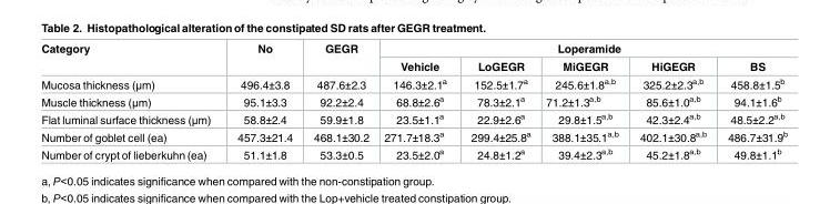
<table><thead><tr><td rowspan="2">Category</td><td rowspan="2">No</td><td rowspan="2">GEGR</td><td colspan="5">Loperamide</td></tr><tr><td>Vehicle</td><td>LoGEGR</td><td>MiGEGR</td><td>HiGEGR</td><td>BS</td></tr></thead><tbody><tr><td>Mucosa thickness (μm)</td><td>496.4±3.8</td><td>487.6±2.3</td><td>146.3±2.1<sup>a</sup></td><td>152.5±1.7<sup>a</sup></td><td>245.6±1.8<sup>a,b</sup></td><td>325.2±2.3<sup>a,b</sup></td><td>458.8±1.5<sup>b</sup></td></tr><tr><td>Muscle thickness (μm)</td><td>95.1±3.3</td><td>92.2±2.4</td><td>68.8±2.6<sup>a</sup></td><td>78.3±2.1<sup>a</sup></td><td>71.2±1.3<sup>a,b</sup></td><td>85.6±1.0<sup>a,b</sup></td><td>94.1±1.6<sup>b</sup></td></tr><tr><td>Flat luminal surface thickness (μm)</td><td>58.8±2.4</td><td>59.9±1.8</td><td>23.5±1.1<sup>a</sup></td><td>22.9±2.6<sup>a</sup></td><td>29.8±1.5<sup>a,b</sup></td><td>42.3±2.4<sup>a,b</sup></td><td>48.5±2.2<sup>a,b</sup></td></tr><tr><td>Number of goblet cell (ea)</td><td>457.3±21.4</td><td>468.1±30.2</td><td>271.7±18.3<sup>a</sup></td><td>299.4±25.8<sup>a</sup></td><td>388.1±35.1<sup>a,b</sup></td><td>402.1±30.8<sup>a,b</sup></td><td>486.7±31.9<sup>b</sup></td></tr><tr><td>Number of crypt of lieberkuhn (ea)</td><td>51.1±1.8</td><td>53.3±0.5</td><td>23.5±2.0<sup>a</sup></td><td>24.8±1.2<sup>a</sup></td><td>39.4±2.3<sup>a,b</sup></td><td>45.2±1.8<sup>a,b</sup></td><td>49.8±1.1<sup>b</sup></td></tr></tbody></table>